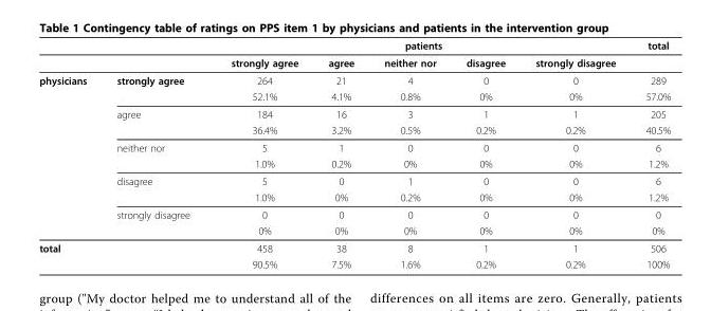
<table><thead><tr><td rowspan="2"></td><td rowspan="2"></td><td colspan="5">patients</td><td rowspan="2">total</td></tr><tr><td>strongly agree</td><td>agree</td><td>neither nor</td><td>disagree</td><td>strongly disagree</td></tr></thead><tbody><tr><td rowspan="10">physicians</td><td>strongly agree</td><td>264</td><td>21</td><td>4</td><td>0</td><td>0</td><td>289</td></tr><tr><td></td><td>52.1%</td><td>4.1%</td><td>0.8%</td><td>0%</td><td>0%</td><td>57.0%</td></tr><tr><td>agree</td><td>184</td><td>16</td><td>3</td><td>1</td><td>1</td><td>205</td></tr><tr><td></td><td>36.4%</td><td>3.2%</td><td>0.5%</td><td>0.2%</td><td>0.2%</td><td>40.5%</td></tr><tr><td>neither nor</td><td>5</td><td>1</td><td>0</td><td>0</td><td>0</td><td>6</td></tr><tr><td></td><td>1.0%</td><td>0.2%</td><td>0%</td><td>0%</td><td>0%</td><td>1.2%</td></tr><tr><td>disagree</td><td>5</td><td>0</td><td>1</td><td>0</td><td>0</td><td>6</td></tr><tr><td></td><td>1.0%</td><td>0%</td><td>0.2%</td><td>0%</td><td>0%</td><td>1.2%</td></tr><tr><td>strongly disagree</td><td>0</td><td>0</td><td>0</td><td>0</td><td>0</td><td>0</td></tr><tr><td></td><td>0%</td><td>0%</td><td>0%</td><td>0%</td><td>0%</td><td>0%</td></tr><tr><td colspan="2">total</td><td>458</td><td>38</td><td>8</td><td>1</td><td>1</td><td>506</td></tr><tr><td></td><td></td><td>90.5%</td><td>7.5%</td><td>1.6%</td><td>0.2%</td><td>0.2%</td><td>100%</td></tr></tbody></table>